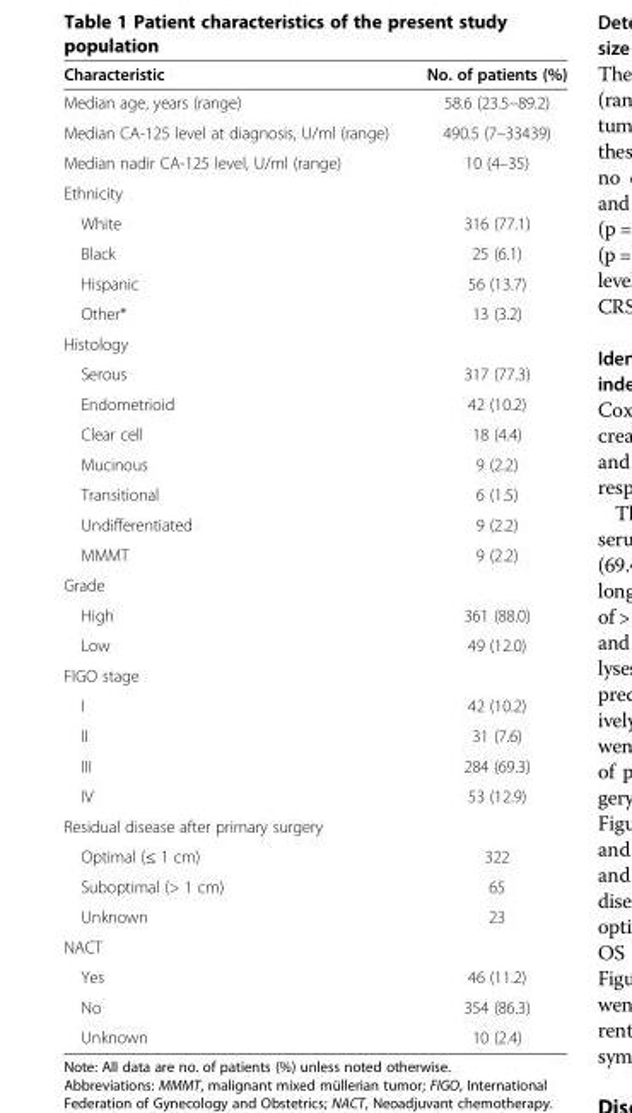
<table><thead><tr><td>Characteristic</td><td>No. of patients (%)</td></tr></thead><tbody><tr><td>Median age, years (range)</td><td>58.6 (23.5–89.2)</td></tr><tr><td>Median CA-125 level at diagnosis, U/ml (range)</td><td>490.5 (7–33439)</td></tr><tr><td>Median nadir CA-125 level, U/ml (range)</td><td>10 (4–35)</td></tr><tr><td colspan="2">Ethnicity</td></tr><tr><td>White</td><td>316 (77.1)</td></tr><tr><td>Black</td><td>25 (6.1)</td></tr><tr><td>Hispanic</td><td>56 (13.7)</td></tr><tr><td>Other*</td><td>13 (3.2)</td></tr><tr><td colspan="2">Histology</td></tr><tr><td>Serous</td><td>317 (77.3)</td></tr><tr><td>Endometrioid</td><td>42 (10.2)</td></tr><tr><td>Clear cell</td><td>18 (4.4)</td></tr><tr><td>Mucinous</td><td>9 (2.2)</td></tr><tr><td>Transitional</td><td>6 (1.5)</td></tr><tr><td>Undifferentiated</td><td>9 (2.2)</td></tr><tr><td>MMMT</td><td>9 (2.2)</td></tr><tr><td colspan="2">Grade</td></tr><tr><td>High</td><td>361 (88.0)</td></tr><tr><td>Low</td><td>49 (12.0)</td></tr><tr><td colspan="2">FIGO stage</td></tr><tr><td>I</td><td>42 (10.2)</td></tr><tr><td>II</td><td>31 (7.6)</td></tr><tr><td>III</td><td>284 (69.3)</td></tr><tr><td>IV</td><td>53 (12.9)</td></tr><tr><td colspan="2">Residual disease after primary surgery</td></tr><tr><td>Optimal (≤ 1 cm)</td><td>322</td></tr><tr><td>Suboptimal (&gt; 1 cm)</td><td>65</td></tr><tr><td>Unknown</td><td>23</td></tr><tr><td colspan="2">NACT</td></tr><tr><td>Yes</td><td>46 (11.2)</td></tr><tr><td>No</td><td>354 (86.3)</td></tr><tr><td>Unknown</td><td>10 (2.4)</td></tr></tbody></table>